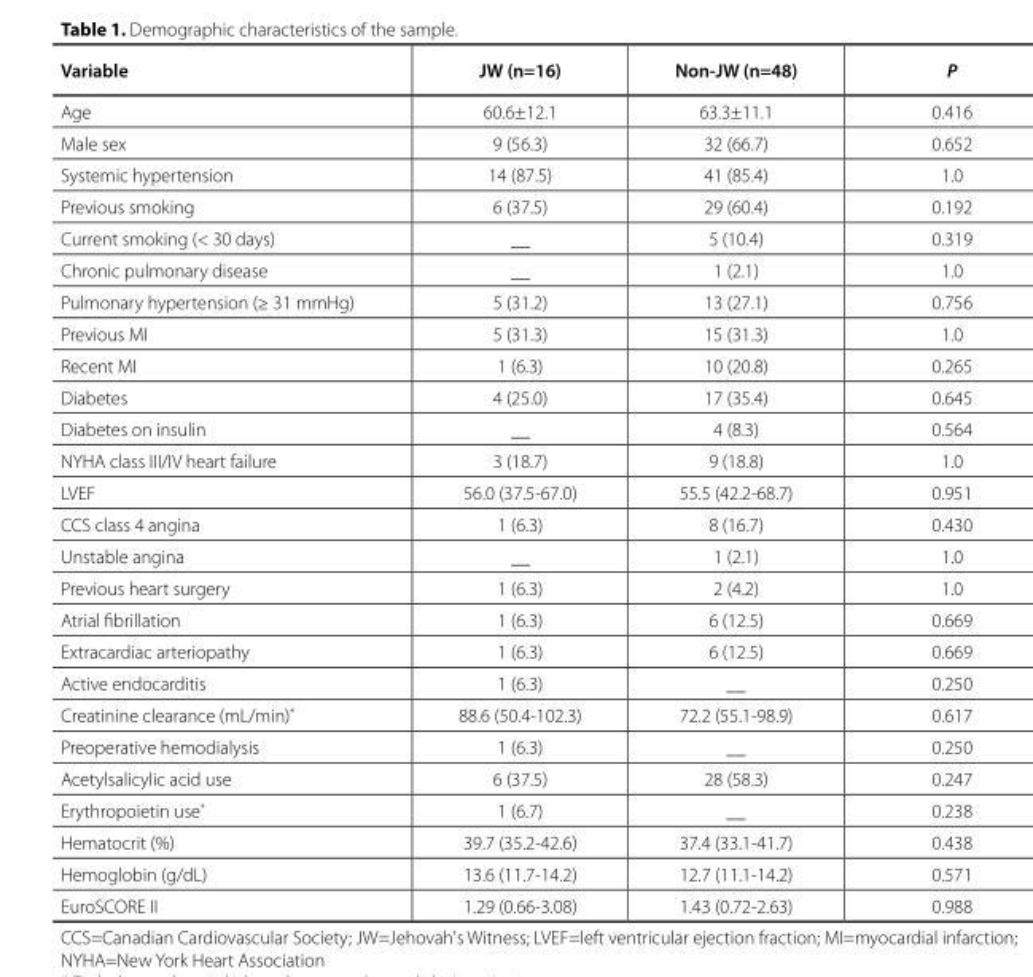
<table><thead><tr><td>Variable</td><td>JW (n=16)</td><td>Non-JW (n=48)</td><td>P</td></tr></thead><tbody><tr><td>Age</td><td>60.6±12.1</td><td>63.3±11.1</td><td>0.416</td></tr><tr><td>Male sex</td><td>9 (56.3)</td><td>32 (66.7)</td><td>0.652</td></tr><tr><td>Systemic hypertension</td><td>14 (87.5)</td><td>41 (85.4)</td><td>1.0</td></tr><tr><td>Previous smoking</td><td>6 (37.5)</td><td>29 (60.4)</td><td>0.192</td></tr><tr><td>Current smoking (&lt; 30 days)</td><td>__</td><td>5 (10.4)</td><td>0.319</td></tr><tr><td>Chronic pulmonary disease</td><td>__</td><td>1 (2.1)</td><td>1.0</td></tr><tr><td>Pulmonary hypertension (≥ 31 mmHg)</td><td>5 (31.2)</td><td>13 (27.1)</td><td>0.756</td></tr><tr><td>Previous MI</td><td>5 (31.3)</td><td>15 (31.3)</td><td>1.0</td></tr><tr><td>Recent MI</td><td>1 (6.3)</td><td>10 (20.8)</td><td>0.265</td></tr><tr><td>Diabetes</td><td>4 (25.0)</td><td>17 (35.4)</td><td>0.645</td></tr><tr><td>Diabetes on insulin</td><td>__</td><td>4 (8.3)</td><td>0.564</td></tr><tr><td>NYHA class III/IV heart failure</td><td>3 (18.7)</td><td>9 (18.8)</td><td>1.0</td></tr><tr><td>LVEF</td><td>56.0 (37.5-67.0)</td><td>55.5 (42.2-68.7)</td><td>0.951</td></tr><tr><td>CCS class 4 angina</td><td>1 (6.3)</td><td>8 (16.7)</td><td>0.430</td></tr><tr><td>Unstable angina</td><td>__</td><td>1 (2.1)</td><td>1.0</td></tr><tr><td>Previous heart surgery</td><td>1 (6.3)</td><td>2 (4.2)</td><td>1.0</td></tr><tr><td>Atrial fibrillation</td><td>1 (6.3)</td><td>6 (12.5)</td><td>0.669</td></tr><tr><td>Extracardiac arteriopathy</td><td>1 (6.3)</td><td>6 (12.5)</td><td>0.669</td></tr><tr><td>Active endocarditis</td><td>1 (6.3)</td><td>__</td><td>0.250</td></tr><tr><td>Creatinine clearance (mL/min)*</td><td>88.6 (50.4-102.3)</td><td>72.2 (55.1-98.9)</td><td>0.617</td></tr><tr><td>Preoperative hemodialysis</td><td>1 (6.3)</td><td>__</td><td>0.250</td></tr><tr><td>Acetylsalicylic acid use</td><td>6 (37.5)</td><td>28 (58.3)</td><td>0.247</td></tr><tr><td>Erythropoietin use*</td><td>1 (6.7)</td><td>__</td><td>0.238</td></tr><tr><td>Hematocrit (%)</td><td>39.7 (35.2-42.6)</td><td>37.4 (33.1-41.7)</td><td>0.438</td></tr><tr><td>Hemoglobin (g/dL)</td><td>13.6 (11.7-14.2)</td><td>12.7 (11.1-14.2)</td><td>0.571</td></tr><tr><td>EuroSCORE II</td><td>1.29 (0.66-3.08)</td><td>1.43 (0.72-2.63)</td><td>0.988</td></tr></tbody></table>